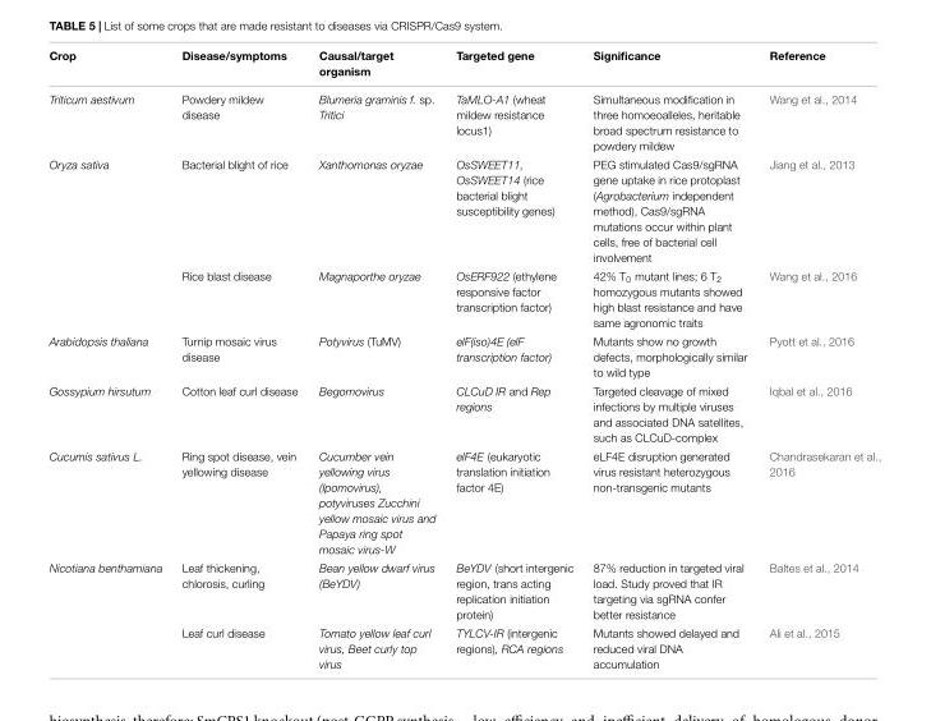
<table><thead><tr><td>Crop</td><td>Disease/symptoms</td><td>Causal/target organism</td><td>Targeted gene</td><td>Significance</td><td>Reference</td></tr></thead><tbody><tr><td>Triticum aestivum</td><td>Powdery mildew disease</td><td>Blumeria graminis f. sp. Tritici</td><td>TaMLO-A1 (wheat mildew resistance locus1)</td><td>Simultaneous modification in three homoeoalleles, heritable broad spectrum resistance to powdery mildew</td><td>Wang et al., 2014</td></tr><tr><td rowspan="2">Oryza sativa</td><td>Bacterial blight of rice</td><td>Xanthomonas oryzae</td><td>OsSWEET11, OsSWEET14 (rice bacterial blight susceptibility genes)</td><td>PEG stimulated Cas9/sgRNA gene uptake in rice protoplast (Agrobacterium independent method), Cas9/sgRNA mutations occur within plant cells, free of bacterial cell involvement</td><td>Jiang et al., 2013</td></tr><tr><td>Rice blast disease</td><td>Magnaporthe oryzae</td><td>OsERF922 (ethylene responsive factor transcription factor)</td><td>42% T<sub>0</sub> mutant lines; 6 T<sub>2</sub> homozygous mutants showed high blast resistance and have same agronomic traits</td><td>Wang et al., 2016</td></tr><tr><td>Arabidopsis thaliana</td><td>Turnip mosaic virus disease</td><td>Potyvirus (TuMV)</td><td>elF(iso)4E (elF transcription factor)</td><td>Mutants show no growth defects, morphologically similar to wild type</td><td>Pyott et al., 2016</td></tr><tr><td>Gossypium hirsutum</td><td>Cotton leaf curl disease</td><td>Begomovirus</td><td>CLCuD IR and Rep regions</td><td>Targeted cleavage of mixed infections by multiple viruses and associated DNA satellites, such as CLCuD-complex</td><td>Iqbal et al., 2016</td></tr><tr><td>Cucumis sativus L.</td><td>Ring spot disease, vein yellowing disease</td><td>Cucumber vein yellowing virus (Ipomovirus), potyviruses Zucchini yellow mosaic virus and Papaya ring spot mosaic virus-W</td><td>elF4E (eukaryotic translation initiation factor 4E)</td><td>eLF4E disruption generated virus resistant heterozygous non-transgenic mutants</td><td>Chandrasekaran et al., 2016</td></tr><tr><td rowspan="2">Nicotiana benthamiana</td><td>Leaf thickening, chlorosis, curling</td><td>Bean yellow dwarf virus (BeYDV)</td><td>BeYDV (short intergenic region, trans acting replication initiation protein)</td><td>87% reduction in targeted viral load. Study proved that IR targeting via sgRNA confer better resistance</td><td>Baltes et al., 2014</td></tr><tr><td>Leaf curl disease</td><td>Tomato yellow leaf curl virus, Beet curly top virus</td><td>TYLCV-IR (intergenic regions), RCA regions</td><td>Mutants showed delayed and reduced viral DNA accumulation</td><td>Ali et al., 2015</td></tr></tbody></table>